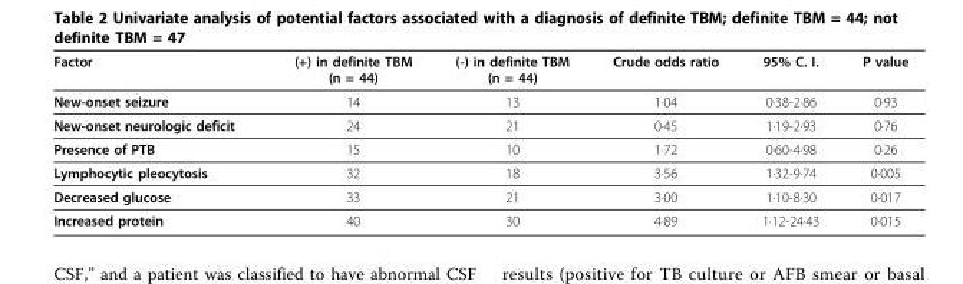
<table><thead><tr><td>Factor</td><td>(+) in definite TBM (n = 44)</td><td>(-) in definite TBM (n = 44)</td><td>Crude odds ratio</td><td>95% C. I.</td><td>P value</td></tr></thead><tbody><tr><td>New-onset seizure</td><td>14</td><td>13</td><td>1·04</td><td>0·38-2·86</td><td>0·93</td></tr><tr><td>New-onset neurologic deficit</td><td>24</td><td>21</td><td>0·45</td><td>1·19-2·93</td><td>0·76</td></tr><tr><td>Presence of PTB</td><td>15</td><td>10</td><td>1·72</td><td>0·60-4·98</td><td>0·26</td></tr><tr><td>Lymphocytic pleocytosis</td><td>32</td><td>18</td><td>3·56</td><td>1·32-9·74</td><td>0·005</td></tr><tr><td>Decreased glucose</td><td>33</td><td>21</td><td>3·00</td><td>1·10-8·30</td><td>0·017</td></tr><tr><td>Increased protein</td><td>40</td><td>30</td><td>4·89</td><td>1·12-24·43</td><td>0·015</td></tr></tbody></table>